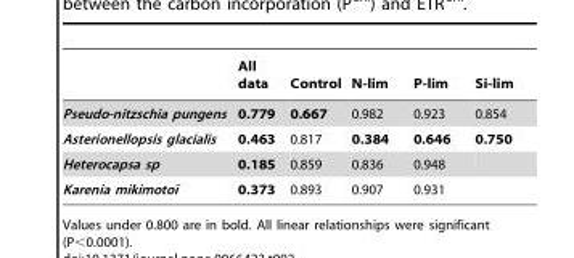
<table><thead><tr><td></td><td>All data</td><td>Control</td><td>N-lim</td><td>P-lim</td><td>Si-lim</td></tr></thead><tbody><tr><td>Pseudo-nitzschia pungens</td><td>0.779</td><td>0.667</td><td>0.982</td><td>0.923</td><td>0.854</td></tr><tr><td>Asterionellopsis glacialis</td><td>0.463</td><td>0.817</td><td>0.384</td><td>0.646</td><td>0.750</td></tr><tr><td>Heterocapsa sp</td><td>0.185</td><td>0.859</td><td>0.836</td><td>0.948</td><td></td></tr><tr><td>Karenia mikimotoı¨</td><td>0.373</td><td>0.893</td><td>0.907</td><td>0.931</td><td></td></tr></tbody></table>